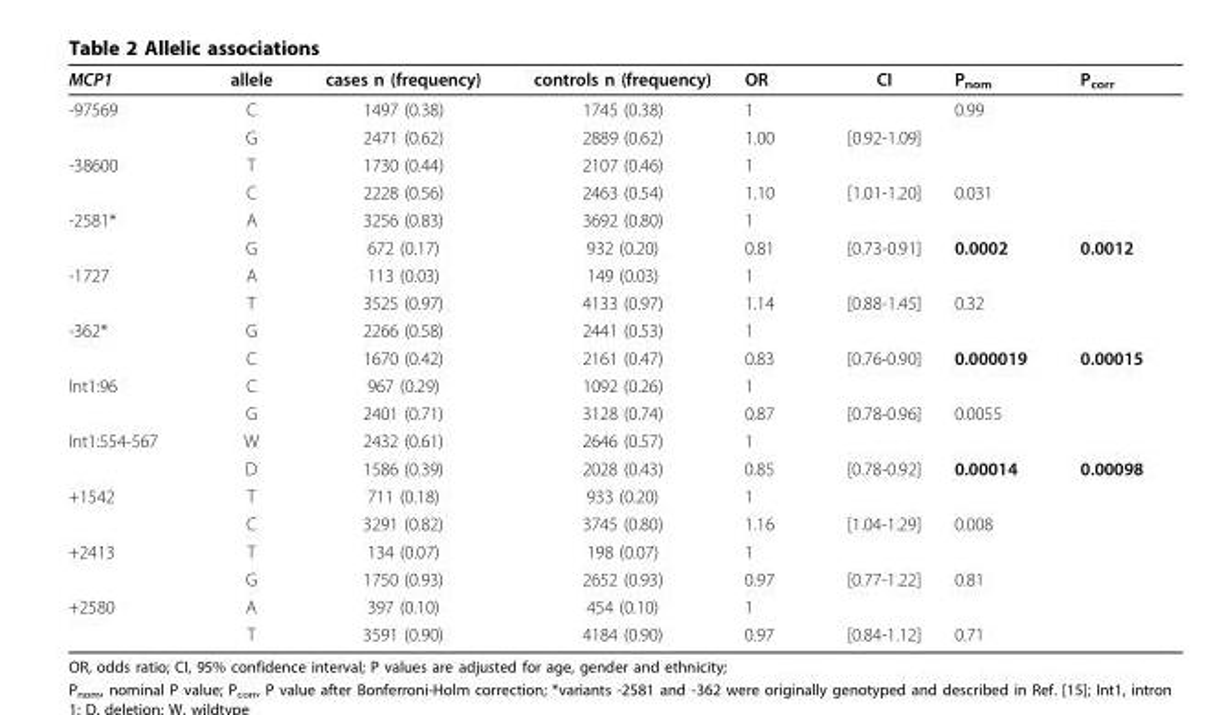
<table><thead><tr><td>MCP1</td><td>allele</td><td>cases n (frequency)</td><td>controls n (frequency)</td><td>OR</td><td>CI</td><td>P<sub>nom</sub></td><td>P<sub>corr</sub></td></tr></thead><tbody><tr><td rowspan="2">-97569</td><td>C</td><td>1497 (0.38)</td><td>1745 (0.38)</td><td>1</td><td></td><td>0.99</td><td></td></tr><tr><td>G</td><td>2471 (0.62)</td><td>2889 (0.62)</td><td>1.00</td><td>[0.92-1.09]</td><td></td><td></td></tr><tr><td rowspan="2">-38600</td><td>T</td><td>1730 (0.44)</td><td>2107 (0.46)</td><td>1</td><td></td><td></td><td></td></tr><tr><td>C</td><td>2228 (0.56)</td><td>2463 (0.54)</td><td>1.10</td><td>[1.01-1.20]</td><td>0.031</td><td></td></tr><tr><td rowspan="2">-2581*</td><td>A</td><td>3256 (0.83)</td><td>3692 (0.80)</td><td>1</td><td></td><td></td><td></td></tr><tr><td>G</td><td>672 (0.17)</td><td>932 (0.20)</td><td>0.81</td><td>[0.73-0.91]</td><td>0.0002</td><td>0.0012</td></tr><tr><td rowspan="2">-1727</td><td>A</td><td>113 (0.03)</td><td>149 (0.03)</td><td>1</td><td></td><td></td><td></td></tr><tr><td>T</td><td>3525 (0.97)</td><td>4133 (0.97)</td><td>1.14</td><td>[0.88-1.45]</td><td>0.32</td><td></td></tr><tr><td rowspan="2">-362*</td><td>G</td><td>2266 (0.58)</td><td>2441 (0.53)</td><td>1</td><td></td><td></td><td></td></tr><tr><td>C</td><td>1670 (0.42)</td><td>2161 (0.47)</td><td>0.83</td><td>[0.76-0.90]</td><td>0.000019</td><td>0.00015</td></tr><tr><td rowspan="2">Int1:96</td><td>C</td><td>967 (0.29)</td><td>1092 (0.26)</td><td>1</td><td></td><td></td><td></td></tr><tr><td>G</td><td>2401 (0.71)</td><td>3128 (0.74)</td><td>0.87</td><td>[0.78-0.96]</td><td>0.0055</td><td></td></tr><tr><td rowspan="2">Int1:554-567</td><td>W</td><td>2432 (0.61)</td><td>2646 (0.57)</td><td>1</td><td></td><td></td><td></td></tr><tr><td>D</td><td>1586 (0.39)</td><td>2028 (0.43)</td><td>0.85</td><td>[0.78-0.92]</td><td>0.00014</td><td>0.00098</td></tr><tr><td rowspan="2">+1542</td><td>T</td><td>711 (0.18)</td><td>933 (0.20)</td><td>1</td><td></td><td></td><td></td></tr><tr><td>C</td><td>3291 (0.82)</td><td>3745 (0.80)</td><td>1.16</td><td>[1.04-1.29]</td><td>0.008</td><td></td></tr><tr><td rowspan="2">+2413</td><td>T</td><td>134 (0.07)</td><td>198 (0.07)</td><td>1</td><td></td><td></td><td></td></tr><tr><td>G</td><td>1750 (0.93)</td><td>2652 (0.93)</td><td>0.97</td><td>[0.77-1.22]</td><td>0.81</td><td></td></tr><tr><td rowspan="2">+2580</td><td>A</td><td>397 (0.10)</td><td>454 (0.10)</td><td>1</td><td></td><td></td><td></td></tr><tr><td>T</td><td>3591 (0.90)</td><td>4184 (0.90)</td><td>0.97</td><td>[0.84-1.12]</td><td>0.71</td><td></td></tr></tbody></table>